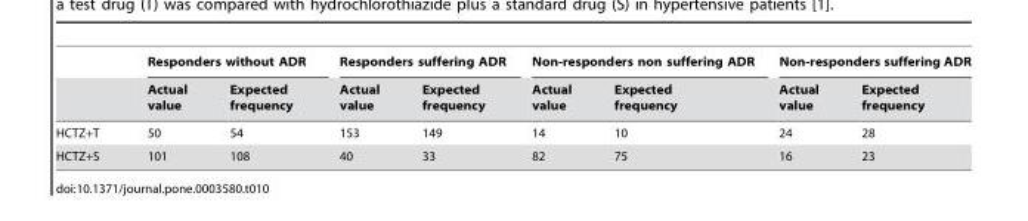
<table><thead><tr><td rowspan="2"></td><td colspan="2">Responders without ADR</td><td colspan="2">Responders suffering ADR</td><td colspan="2">Non-responders non suffering ADR</td><td colspan="2">Non-responders suffering ADR</td></tr><tr><td>Actual value</td><td>Expected frequency</td><td>Actual value</td><td>Expected frequency</td><td>Actual value</td><td>Expected frequency</td><td>Actual value</td><td>Expected frequency</td></tr></thead><tbody><tr><td>HCTZ+T</td><td>50</td><td>54</td><td>153</td><td>149</td><td>14</td><td>10</td><td>24</td><td>28</td></tr><tr><td>HCTZ+S</td><td>101</td><td>108</td><td>40</td><td>33</td><td>82</td><td>75</td><td>16</td><td>23</td></tr></tbody></table>